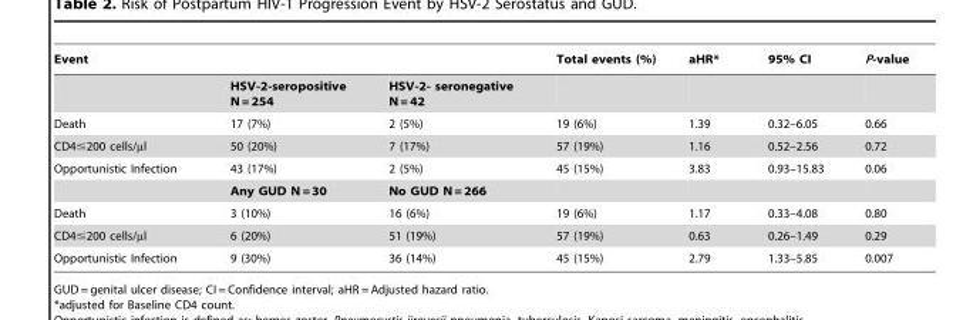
<table><thead><tr><td>Event</td><td></td><td></td><td>Total events (%)</td><td>aHR*</td><td>95% CI</td><td>P-value</td></tr></thead><tbody><tr><td></td><td>HSV-2-seropositive N = 254</td><td>HSV-2- seronegative N = 42</td><td></td><td></td><td></td><td></td></tr><tr><td>Death</td><td>17 (7%)</td><td>2 (5%)</td><td>19 (6%)</td><td>1.39</td><td>0.32–6.05</td><td>0.66</td></tr><tr><td>CD4≤200 cells/µl</td><td>50 (20%)</td><td>7 (17%)</td><td>57 (19%)</td><td>1.16</td><td>0.52–2.56</td><td>0.72</td></tr><tr><td rowspan="2">Opportunistic Infection</td><td>43 (17%)</td><td>2 (5%)</td><td>45 (15%)</td><td>3.83</td><td>0.93–15.83</td><td>0.06</td></tr><tr><td>Any GUD N = 30</td><td>No GUD N = 266</td><td></td><td></td><td></td><td></td></tr><tr><td>Death</td><td>3 (10%)</td><td>16 (6%)</td><td>19 (6%)</td><td>1.17</td><td>0.33–4.08</td><td>0.80</td></tr><tr><td>CD4≤200 cells/µl</td><td>6 (20%)</td><td>51 (19%)</td><td>57 (19%)</td><td>0.63</td><td>0.26–1.49</td><td>0.29</td></tr><tr><td>Opportunistic Infection</td><td>9 (30%)</td><td>36 (14%)</td><td>45 (15%)</td><td>2.79</td><td>1.33–5.85</td><td>0.007</td></tr></tbody></table>